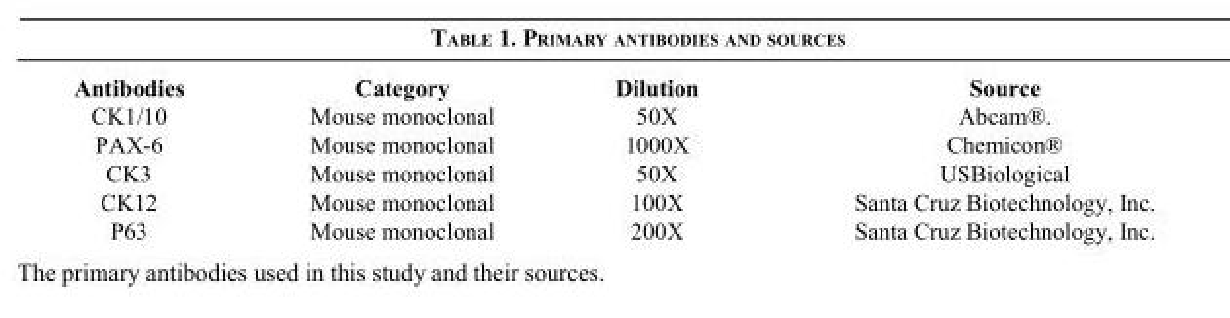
<table><tbody><tr><td>Antibodies</td><td>Category</td><td>Dilution</td><td>Source</td></tr><tr><td>CK1/10</td><td>Mouse monoclonal</td><td>50X</td><td>Abcam®.</td></tr><tr><td>PAX-6</td><td>Mouse monoclonal</td><td>1000X</td><td>Chemicon®</td></tr><tr><td>CK3</td><td>Mouse monoclonal</td><td>50X</td><td>USBiological</td></tr><tr><td>CK12</td><td>Mouse monoclonal</td><td>100X</td><td>Santa Cruz Biotechnology, Inc.</td></tr><tr><td>P63</td><td>Mouse monoclonal</td><td>200X</td><td>Santa Cruz Biotechnology, Inc.</td></tr></tbody></table>